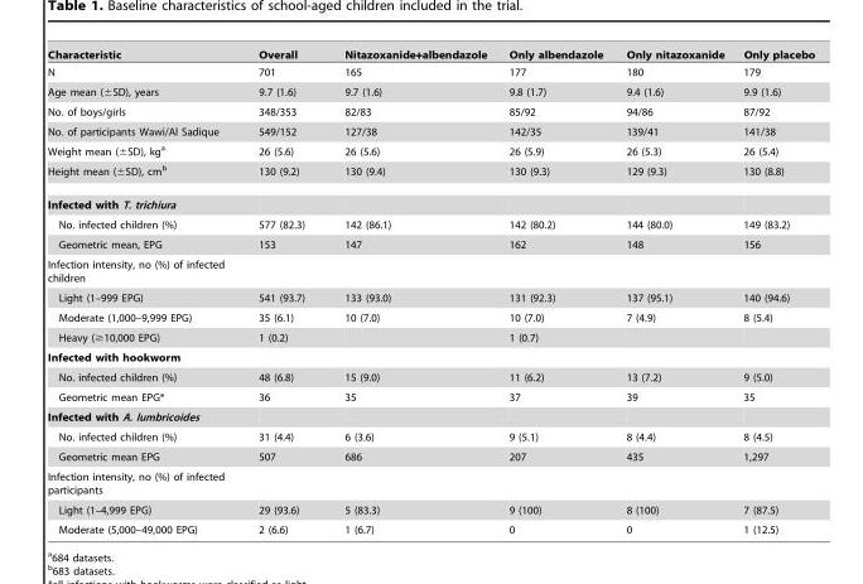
<table><thead><tr><td>Characteristic</td><td>Overall</td><td>Nitazoxanide+albendazole</td><td>Only albendazole</td><td>Only nitazoxanide</td><td>Only placebo</td></tr></thead><tbody><tr><td>N</td><td>701</td><td>165</td><td>177</td><td>180</td><td>179</td></tr><tr><td>Age mean (±SD), years</td><td>9.7 (1.6)</td><td>9.7 (1.6)</td><td>9.8 (1.7)</td><td>9.4 (1.6)</td><td>9.9 (1.6)</td></tr><tr><td>No. of boys/girls</td><td>348/353</td><td>82/83</td><td>85/92</td><td>94/86</td><td>87/92</td></tr><tr><td>No. of participants Wawi/Al Sadique</td><td>549/152</td><td>127/38</td><td>142/35</td><td>139/41</td><td>141/38</td></tr><tr><td>Weight mean (±SD), kg<sup>a</sup></td><td>26 (5.6)</td><td>26 (5.6)</td><td>26 (5.9)</td><td>26 (5.3)</td><td>26 (5.4)</td></tr><tr><td>Height mean (±SD), cm<sup>b</sup></td><td>130 (9.2)</td><td>130 (9.4)</td><td>130 (9.3)</td><td>129 (9.3)</td><td>130 (8.8)</td></tr><tr><td colspan="6">Infected with T. trichiura</td></tr><tr><td>No. infected children (%)</td><td>577 (82.3)</td><td>142 (86.1)</td><td>142 (80.2)</td><td>144 (80.0)</td><td>149 (83.2)</td></tr><tr><td>Geometric mean, EPG</td><td>153</td><td>147</td><td>162</td><td>148</td><td>156</td></tr><tr><td colspan="6">Infection intensity, no (%) of infected children</td></tr><tr><td>Light (1–999 EPG)</td><td>541 (93.7)</td><td>133 (93.0)</td><td>131 (92.3)</td><td>137 (95.1)</td><td>140 (94.6)</td></tr><tr><td>Moderate (1,000–9,999 EPG)</td><td>35 (6.1)</td><td>10 (7.0)</td><td>10 (7.0)</td><td>7 (4.9)</td><td>8 (5.4)</td></tr><tr><td>Heavy (≥10,000 EPG)</td><td>1 (0.2)</td><td></td><td>1 (0.7)</td><td></td><td></td></tr><tr><td colspan="6">Infected with hookworm</td></tr><tr><td>No. infected children (%)</td><td>48 (6.8)</td><td>15 (9.0)</td><td>11 (6.2)</td><td>13 (7.2)</td><td>9 (5.0)</td></tr><tr><td>Geometric mean EPG*</td><td>36</td><td>35</td><td>37</td><td>39</td><td>35</td></tr><tr><td colspan="6">Infected with A. lumbricoides</td></tr><tr><td>No. infected children (%)</td><td>31 (4.4)</td><td>6 (3.6)</td><td>9 (5.1)</td><td>8 (4.4)</td><td>8 (4.5)</td></tr><tr><td>Geometric mean EPG</td><td>507</td><td>686</td><td>207</td><td>435</td><td>1,297</td></tr><tr><td colspan="6">Infection intensity, no (%) of infected participants</td></tr><tr><td>Light (1–4,999 EPG)</td><td>29 (93.6)</td><td>5 (83.3)</td><td>9 (100)</td><td>8 (100)</td><td>7 (87.5)</td></tr><tr><td>Moderate (5,000–49,000 EPG)</td><td>2 (6.6)</td><td>1 (6.7)</td><td>0</td><td>0</td><td>1 (12.5)</td></tr></tbody></table>